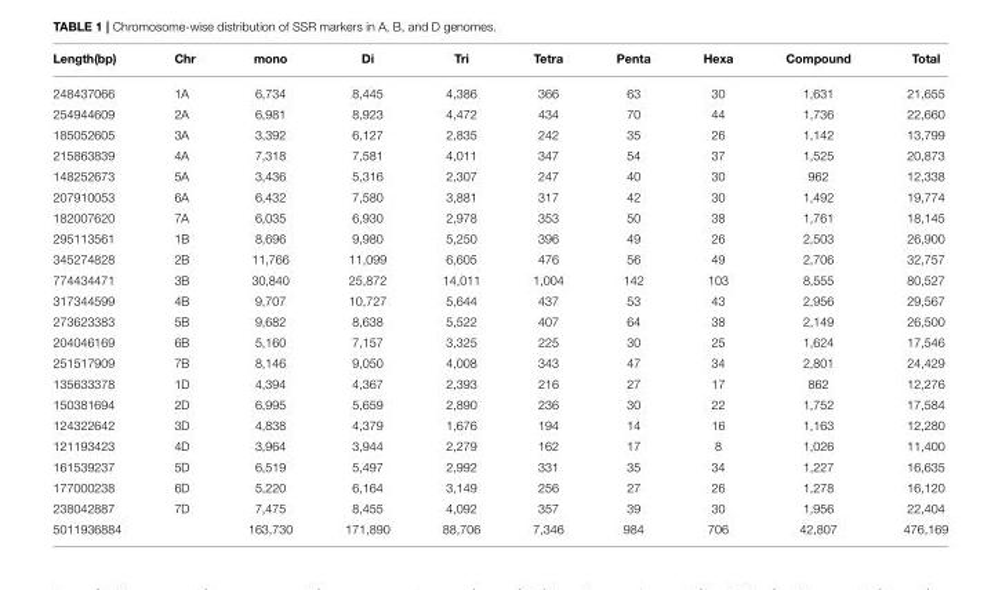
<table><thead><tr><td>Length(bp)</td><td>Chr</td><td>mono</td><td>Di</td><td>Tri</td><td>Tetra</td><td>Penta</td><td>Hexa</td><td>Compound</td><td>Total</td></tr></thead><tbody><tr><td>248437066</td><td>1A</td><td>6,734</td><td>8,445</td><td>4,386</td><td>366</td><td>63</td><td>30</td><td>1,631</td><td>21,655</td></tr><tr><td>254944609</td><td>2A</td><td>6,981</td><td>8,923</td><td>4,472</td><td>434</td><td>70</td><td>44</td><td>1,736</td><td>22,660</td></tr><tr><td>185052605</td><td>3A</td><td>3,392</td><td>6,127</td><td>2,835</td><td>242</td><td>35</td><td>26</td><td>1,142</td><td>13,799</td></tr><tr><td>215863839</td><td>4A</td><td>7,318</td><td>7,581</td><td>4,011</td><td>347</td><td>54</td><td>37</td><td>1,525</td><td>20,873</td></tr><tr><td>148252673</td><td>5A</td><td>3,436</td><td>5,316</td><td>2,307</td><td>247</td><td>40</td><td>30</td><td>962</td><td>12,338</td></tr><tr><td>207910053</td><td>6A</td><td>6,432</td><td>7,580</td><td>3,881</td><td>317</td><td>42</td><td>30</td><td>1,492</td><td>19,774</td></tr><tr><td>182007620</td><td>7A</td><td>6,035</td><td>6,930</td><td>2,978</td><td>353</td><td>50</td><td>38</td><td>1,761</td><td>18,145</td></tr><tr><td>295113561</td><td>1B</td><td>8,696</td><td>9,980</td><td>5,250</td><td>396</td><td>49</td><td>26</td><td>2,503</td><td>26,900</td></tr><tr><td>345274828</td><td>2B</td><td>11,766</td><td>11,099</td><td>6,605</td><td>476</td><td>56</td><td>49</td><td>2,706</td><td>32,757</td></tr><tr><td>774434471</td><td>3B</td><td>30,840</td><td>25,872</td><td>14,011</td><td>1,004</td><td>142</td><td>103</td><td>8,555</td><td>80,527</td></tr><tr><td>317344599</td><td>4B</td><td>9,707</td><td>10,727</td><td>5,644</td><td>437</td><td>53</td><td>43</td><td>2,956</td><td>29,567</td></tr><tr><td>273623383</td><td>5B</td><td>9,682</td><td>8,638</td><td>5,522</td><td>407</td><td>64</td><td>38</td><td>2,149</td><td>26,500</td></tr><tr><td>204046169</td><td>6B</td><td>5,160</td><td>7,157</td><td>3,325</td><td>225</td><td>30</td><td>25</td><td>1,624</td><td>17,546</td></tr><tr><td>251517909</td><td>7B</td><td>8,146</td><td>9,050</td><td>4,008</td><td>343</td><td>47</td><td>34</td><td>2,801</td><td>24,429</td></tr><tr><td>135633378</td><td>1D</td><td>4,394</td><td>4,367</td><td>2,393</td><td>216</td><td>27</td><td>17</td><td>862</td><td>12,276</td></tr><tr><td>150381694</td><td>2D</td><td>6,995</td><td>5,659</td><td>2,890</td><td>236</td><td>30</td><td>22</td><td>1,752</td><td>17,584</td></tr><tr><td>124322642</td><td>3D</td><td>4,838</td><td>4,379</td><td>1,676</td><td>194</td><td>14</td><td>16</td><td>1,163</td><td>12,280</td></tr><tr><td>121193423</td><td>4D</td><td>3,964</td><td>3,944</td><td>2,279</td><td>162</td><td>17</td><td>8</td><td>1,026</td><td>11,400</td></tr><tr><td>161539237</td><td>5D</td><td>6,519</td><td>5,497</td><td>2,992</td><td>331</td><td>35</td><td>34</td><td>1,227</td><td>16,635</td></tr><tr><td>177000238</td><td>6D</td><td>5,220</td><td>6,164</td><td>3,149</td><td>256</td><td>27</td><td>26</td><td>1,278</td><td>16,120</td></tr><tr><td>238042887</td><td>7D</td><td>7,475</td><td>8,455</td><td>4,092</td><td>357</td><td>39</td><td>30</td><td>1,956</td><td>22,404</td></tr><tr><td>5011936884</td><td></td><td>163,730</td><td>171,890</td><td>88,706</td><td>7,346</td><td>984</td><td>706</td><td>42,807</td><td>476,169</td></tr></tbody></table>